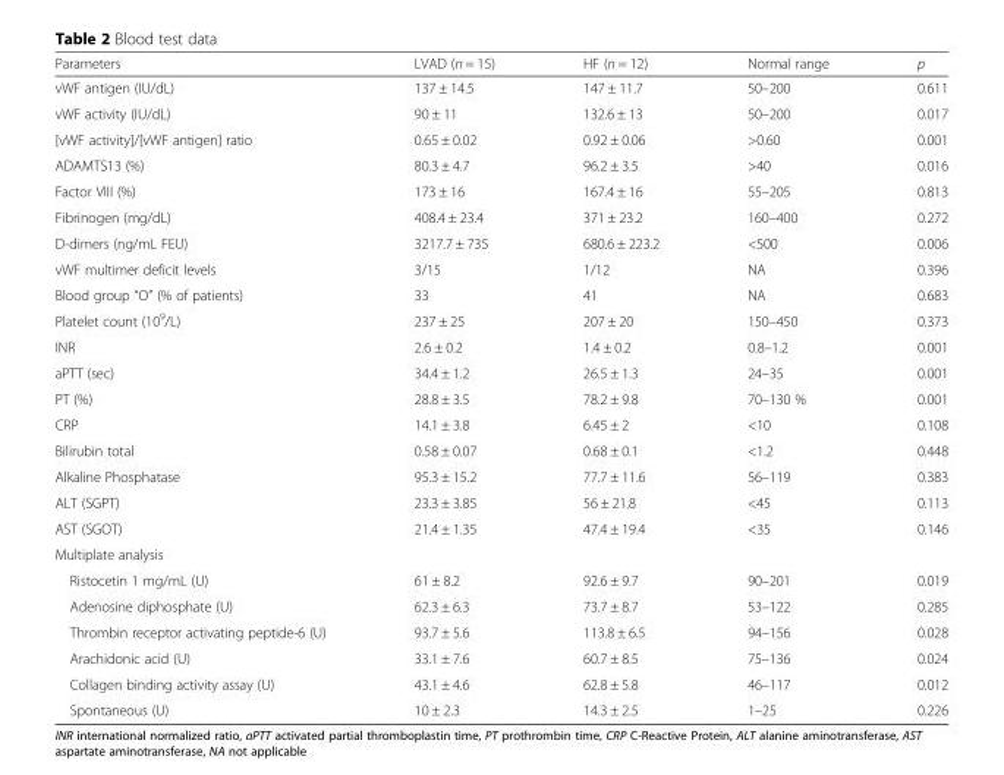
<table><thead><tr><td>Parameters</td><td>LVAD (n = 15)</td><td>HF (n = 12)</td><td>Normal range</td><td>p</td></tr></thead><tbody><tr><td>vWF antigen (IU/dL)</td><td>137 ± 14.5</td><td>147 ± 11.7</td><td>50–200</td><td>0.611</td></tr><tr><td>vWF activity (IU/dL)</td><td>90 ± 11</td><td>132.6 ± 13</td><td>50–200</td><td>0.017</td></tr><tr><td>[vWF activity]/[vWF antigen] ratio</td><td>0.65 ± 0.02</td><td>0.92 ± 0.06</td><td>&gt;0.60</td><td>0.001</td></tr><tr><td>ADAMTS13 (%)</td><td>80.3 ± 4.7</td><td>96.2 ± 3.5</td><td>&gt;40</td><td>0.016</td></tr><tr><td>Factor VIII (%)</td><td>173 ± 16</td><td>167.4 ± 16</td><td>55–205</td><td>0.813</td></tr><tr><td>Fibrinogen (mg/dL)</td><td>408.4 ± 23.4</td><td>371 ± 23.2</td><td>160–400</td><td>0.272</td></tr><tr><td>D-dimers (ng/mL FEU)</td><td>3217.7 ± 735</td><td>680.6 ± 223.2</td><td>&lt;500</td><td>0.006</td></tr><tr><td>vWF multimer deficit levels</td><td>3/15</td><td>1/12</td><td>NA</td><td>0.396</td></tr><tr><td>Blood group “O” (% of patients)</td><td>33</td><td>41</td><td>NA</td><td>0.683</td></tr><tr><td>Platelet count (10<sup>9</sup>/L)</td><td>237 ± 25</td><td>207 ± 20</td><td>150–450</td><td>0.373</td></tr><tr><td>INR</td><td>2.6 ± 0.2</td><td>1.4 ± 0.2</td><td>0.8–1.2</td><td>0.001</td></tr><tr><td>aPTT (sec)</td><td>34.4 ± 1.2</td><td>26.5 ± 1.3</td><td>24–35</td><td>0.001</td></tr><tr><td>PT (%)</td><td>28.8 ± 3.5</td><td>78.2 ± 9.8</td><td>70–130 %</td><td>0.001</td></tr><tr><td>CRP</td><td>14.1 ± 3.8</td><td>6.45 ± 2</td><td>&lt;10</td><td>0.108</td></tr><tr><td>Bilirubin total</td><td>0.58 ± 0.07</td><td>0.68 ± 0.1</td><td>&lt;1.2</td><td>0.448</td></tr><tr><td>Alkaline Phosphatase</td><td>95.3 ± 15.2</td><td>77.7 ± 11.6</td><td>56–119</td><td>0.383</td></tr><tr><td>ALT (SGPT)</td><td>23.3 ± 3.85</td><td>56 ± 21.8</td><td>&lt;45</td><td>0.113</td></tr><tr><td>AST (SGOT)</td><td>21.4 ± 1.35</td><td>47.4 ± 19.4</td><td>&lt;35</td><td>0.146</td></tr><tr><td colspan="5">Multiplate analysis</td></tr><tr><td>Ristocetin 1 mg/mL (U)</td><td>61 ± 8.2</td><td>92.6 ± 9.7</td><td>90–201</td><td>0.019</td></tr><tr><td>Adenosine diphosphate (U)</td><td>62.3 ± 6.3</td><td>73.7 ± 8.7</td><td>53–122</td><td>0.285</td></tr><tr><td>Thrombin receptor activating peptide-6 (U)</td><td>93.7 ± 5.6</td><td>113.8 ± 6.5</td><td>94–156</td><td>0.028</td></tr><tr><td>Arachidonic acid (U)</td><td>33.1 ± 7.6</td><td>60.7 ± 8.5</td><td>75–136</td><td>0.024</td></tr><tr><td>Collagen binding activity assay (U)</td><td>43.1 ± 4.6</td><td>62.8 ± 5.8</td><td>46–117</td><td>0.012</td></tr><tr><td>Spontaneous (U)</td><td>10 ± 2.3</td><td>14.3 ± 2.5</td><td>1–25</td><td>0.226</td></tr></tbody></table>